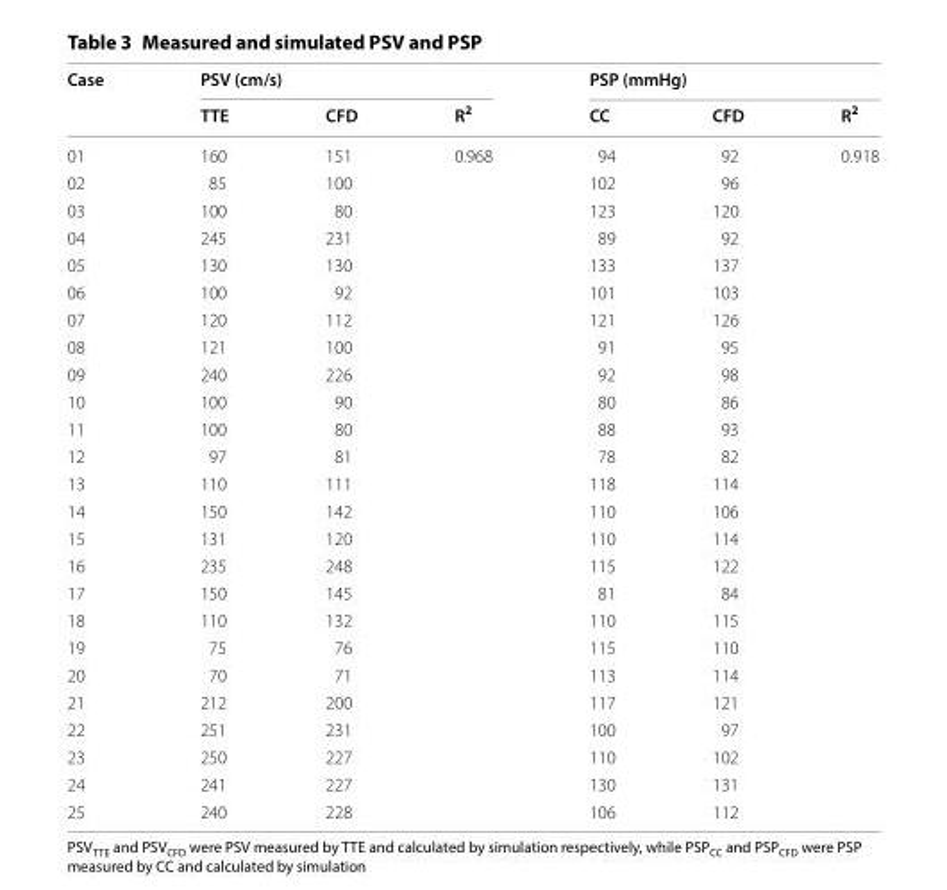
<table><thead><tr><td rowspan="2">Case</td><td colspan="3">PSV (cm/s)</td><td colspan="3">PSP (mmHg)</td></tr><tr><td>TTE</td><td>CFD</td><td>R<sup>2</sup></td><td>CC</td><td>CFD</td><td>R<sup>2</sup></td></tr></thead><tbody><tr><td>01</td><td>160</td><td>151</td><td>0.968</td><td>94</td><td>92</td><td>0.918</td></tr><tr><td>02</td><td>85</td><td>100</td><td></td><td>102</td><td>96</td><td></td></tr><tr><td>03</td><td>100</td><td>80</td><td></td><td>123</td><td>120</td><td></td></tr><tr><td>04</td><td>245</td><td>231</td><td></td><td>89</td><td>92</td><td></td></tr><tr><td>05</td><td>130</td><td>130</td><td></td><td>133</td><td>137</td><td></td></tr><tr><td>06</td><td>100</td><td>92</td><td></td><td>101</td><td>103</td><td></td></tr><tr><td>07</td><td>120</td><td>112</td><td></td><td>121</td><td>126</td><td></td></tr><tr><td>08</td><td>121</td><td>100</td><td></td><td>91</td><td>95</td><td></td></tr><tr><td>09</td><td>240</td><td>226</td><td></td><td>92</td><td>98</td><td></td></tr><tr><td>10</td><td>100</td><td>90</td><td></td><td>80</td><td>86</td><td></td></tr><tr><td>11</td><td>100</td><td>80</td><td></td><td>88</td><td>93</td><td></td></tr><tr><td>12</td><td>97</td><td>81</td><td></td><td>78</td><td>82</td><td></td></tr><tr><td>13</td><td>110</td><td>111</td><td></td><td>118</td><td>114</td><td></td></tr><tr><td>14</td><td>150</td><td>142</td><td></td><td>110</td><td>106</td><td></td></tr><tr><td>15</td><td>131</td><td>120</td><td></td><td>110</td><td>114</td><td></td></tr><tr><td>16</td><td>235</td><td>248</td><td></td><td>115</td><td>122</td><td></td></tr><tr><td>17</td><td>150</td><td>145</td><td></td><td>81</td><td>84</td><td></td></tr><tr><td>18</td><td>110</td><td>132</td><td></td><td>110</td><td>115</td><td></td></tr><tr><td>19</td><td>75</td><td>76</td><td></td><td>115</td><td>110</td><td></td></tr><tr><td>20</td><td>70</td><td>71</td><td></td><td>113</td><td>114</td><td></td></tr><tr><td>21</td><td>212</td><td>200</td><td></td><td>117</td><td>121</td><td></td></tr><tr><td>22</td><td>251</td><td>231</td><td></td><td>100</td><td>97</td><td></td></tr><tr><td>23</td><td>250</td><td>227</td><td></td><td>110</td><td>102</td><td></td></tr><tr><td>24</td><td>241</td><td>227</td><td></td><td>130</td><td>131</td><td></td></tr><tr><td>25</td><td>240</td><td>228</td><td></td><td>106</td><td>112</td><td></td></tr></tbody></table>